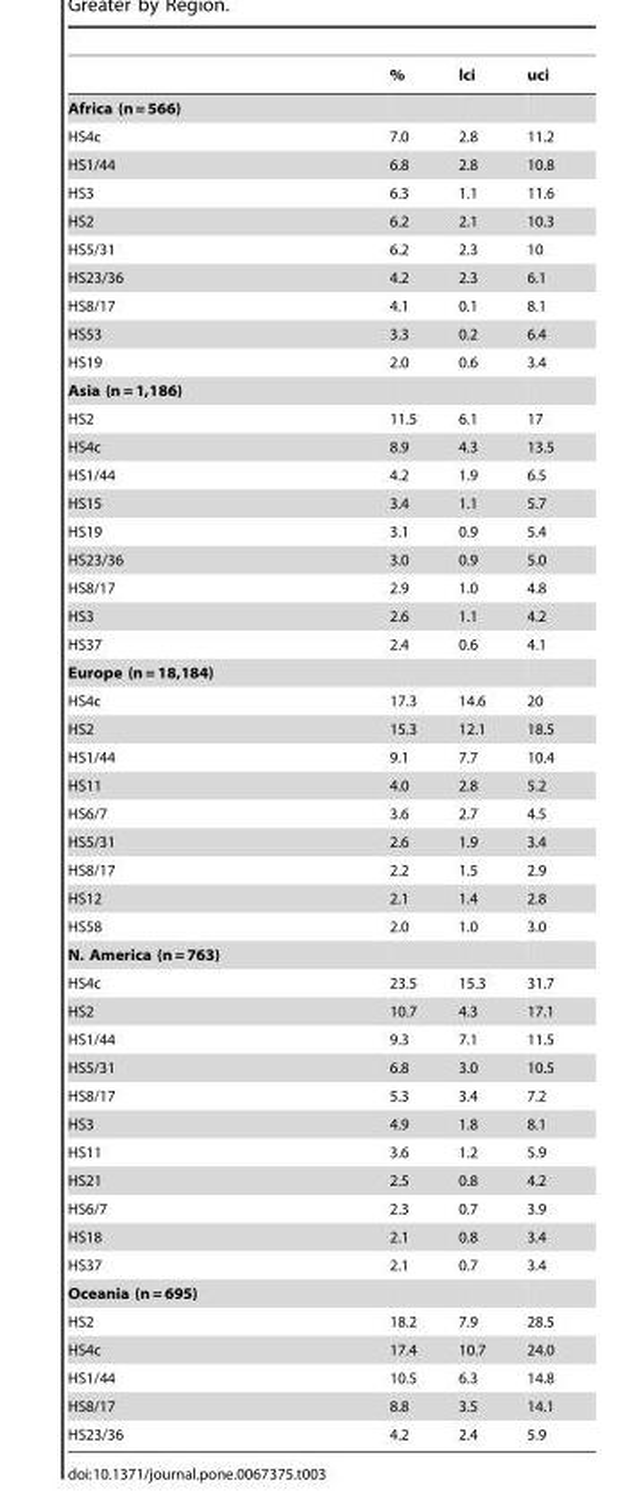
<table><thead><tr><td></td><td>%</td><td>lci</td><td>uci</td></tr></thead><tbody><tr><td colspan="4">Africa (n = 566)</td></tr><tr><td>HS4c</td><td>7.0</td><td>2.8</td><td>11.2</td></tr><tr><td>HS1/44</td><td>6.8</td><td>2.8</td><td>10.8</td></tr><tr><td>HS3</td><td>6.3</td><td>1.1</td><td>11.6</td></tr><tr><td>HS2</td><td>6.2</td><td>2.1</td><td>10.3</td></tr><tr><td>HS5/31</td><td>6.2</td><td>2.3</td><td>10</td></tr><tr><td>HS23/36</td><td>4.2</td><td>2.3</td><td>6.1</td></tr><tr><td>HS8/17</td><td>4.1</td><td>0.1</td><td>8.1</td></tr><tr><td>HS53</td><td>3.3</td><td>0.2</td><td>6.4</td></tr><tr><td>HS19</td><td>2.0</td><td>0.6</td><td>3.4</td></tr><tr><td colspan="4">Asia (n = 1,186)</td></tr><tr><td>HS2</td><td>11.5</td><td>6.1</td><td>17</td></tr><tr><td>HS4c</td><td>8.9</td><td>4.3</td><td>13.5</td></tr><tr><td>HS1/44</td><td>4.2</td><td>1.9</td><td>6.5</td></tr><tr><td>HS15</td><td>3.4</td><td>1.1</td><td>5.7</td></tr><tr><td>HS19</td><td>3.1</td><td>0.9</td><td>5.4</td></tr><tr><td>HS23/36</td><td>3.0</td><td>0.9</td><td>5.0</td></tr><tr><td>HS8/17</td><td>2.9</td><td>1.0</td><td>4.8</td></tr><tr><td>HS3</td><td>2.6</td><td>1.1</td><td>4.2</td></tr><tr><td>HS37</td><td>2.4</td><td>0.6</td><td>4.1</td></tr><tr><td colspan="4">Europe (n = 18,184)</td></tr><tr><td>HS4c</td><td>17.3</td><td>14.6</td><td>20</td></tr><tr><td>HS2</td><td>15.3</td><td>12.1</td><td>18.5</td></tr><tr><td>HS1/44</td><td>9.1</td><td>7.7</td><td>10.4</td></tr><tr><td>HS11</td><td>4.0</td><td>2.8</td><td>5.2</td></tr><tr><td>HS6/7</td><td>3.6</td><td>2.7</td><td>4.5</td></tr><tr><td>HS5/31</td><td>2.6</td><td>1.9</td><td>3.4</td></tr><tr><td>HS8/17</td><td>2.2</td><td>1.5</td><td>2.9</td></tr><tr><td>HS12</td><td>2.1</td><td>1.4</td><td>2.8</td></tr><tr><td>HS58</td><td>2.0</td><td>1.0</td><td>3.0</td></tr><tr><td colspan="4">N. America (n = 763)</td></tr><tr><td>HS4c</td><td>23.5</td><td>15.3</td><td>31.7</td></tr><tr><td>HS2</td><td>10.7</td><td>4.3</td><td>17.1</td></tr><tr><td>HS1/44</td><td>9.3</td><td>7.1</td><td>11.5</td></tr><tr><td>HS5/31</td><td>6.8</td><td>3.0</td><td>10.5</td></tr><tr><td>HS8/17</td><td>5.3</td><td>3.4</td><td>7.2</td></tr><tr><td>HS3</td><td>4.9</td><td>1.8</td><td>8.1</td></tr><tr><td>HS11</td><td>3.6</td><td>1.2</td><td>5.9</td></tr><tr><td>HS21</td><td>2.5</td><td>0.8</td><td>4.2</td></tr><tr><td>HS6/7</td><td>2.3</td><td>0.7</td><td>3.9</td></tr><tr><td>HS18</td><td>2.1</td><td>0.8</td><td>3.4</td></tr><tr><td>HS37</td><td>2.1</td><td>0.7</td><td>3.4</td></tr><tr><td colspan="4">Oceania (n = 695)</td></tr><tr><td>HS2</td><td>18.2</td><td>7.9</td><td>28.5</td></tr><tr><td>HS4c</td><td>17.4</td><td>10.7</td><td>24.0</td></tr><tr><td>HS1/44</td><td>10.5</td><td>6.3</td><td>14.8</td></tr><tr><td>HS8/17</td><td>8.8</td><td>3.5</td><td>14.1</td></tr><tr><td>HS23/36</td><td>4.2</td><td>2.4</td><td>5.9</td></tr></tbody></table>